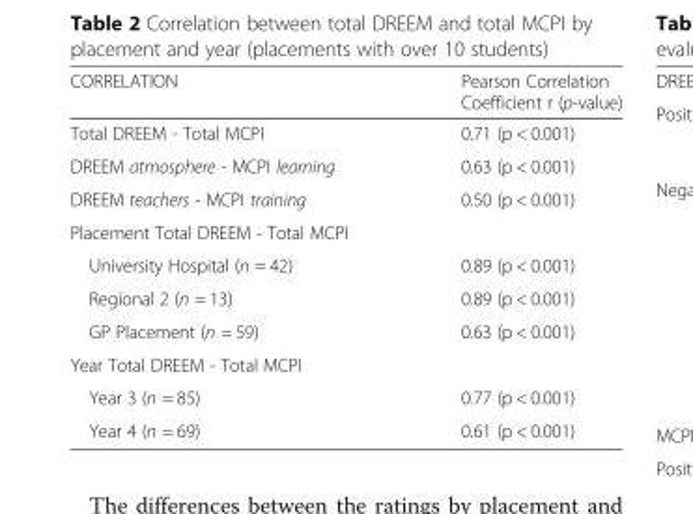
<table><thead><tr><td>CORRELATION</td><td>Pearson Correlation Coefficient r (p-value)</td></tr></thead><tbody><tr><td>Total DREEM - Total MCPI</td><td>0.71 (p &lt; 0.001)</td></tr><tr><td>DREEM atmosphere - MCPI learning</td><td>0.63 (p &lt; 0.001)</td></tr><tr><td>DREEM teachers - MCPI training</td><td>0.50 (p &lt; 0.001)</td></tr><tr><td colspan="2">Placement Total DREEM - Total MCPI</td></tr><tr><td>University Hospital (n = 42)</td><td>0.89 (p &lt; 0.001)</td></tr><tr><td>Regional 2 (n = 13)</td><td>0.89 (p &lt; 0.001)</td></tr><tr><td>GP Placement (n = 59)</td><td>0.63 (p &lt; 0.001)</td></tr><tr><td colspan="2">Year Total DREEM - Total MCPI</td></tr><tr><td>Year 3 (n = 85)</td><td>0.77 (p &lt; 0.001)</td></tr><tr><td>Year 4 (n = 69)</td><td>0.61 (p &lt; 0.001)</td></tr></tbody></table>